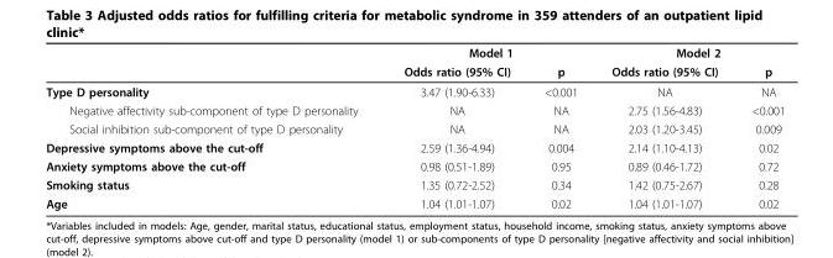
<table><thead><tr><td rowspan="2"></td><td colspan="2">Model 1</td><td colspan="2">Model 2</td></tr><tr><td>Odds ratio (95% CI)</td><td>p</td><td>Odds ratio (95% CI)</td><td>p</td></tr></thead><tbody><tr><td>Type D personality</td><td>3.47 (1.90-6.33)</td><td>&lt;0.001</td><td>NA</td><td>NA</td></tr><tr><td>Negative affectivity sub-component of type D personality</td><td>NA</td><td>NA</td><td>2.75 (1.56-4.83)</td><td>&lt;0.001</td></tr><tr><td>Social inhibition sub-component of type D personality</td><td>NA</td><td>NA</td><td>2.03 (1.20-3.45)</td><td>0.009</td></tr><tr><td>Depressive symptoms above the cut-off</td><td>2.59 (1.36-4.94)</td><td>0.004</td><td>2.14 (1.10-4.13)</td><td>0.02</td></tr><tr><td>Anxiety symptoms above the cut-off</td><td>0.98 (0.51-1.89)</td><td>0.95</td><td>0.89 (0.46-1.72)</td><td>0.72</td></tr><tr><td>Smoking status</td><td>1.35 (0.72-2.52)</td><td>0.34</td><td>1.42 (0.75-2.67)</td><td>0.28</td></tr><tr><td>Age</td><td>1.04 (1.01-1.07)</td><td>0.02</td><td>1.04 (1.01-1.07)</td><td>0.02</td></tr></tbody></table>